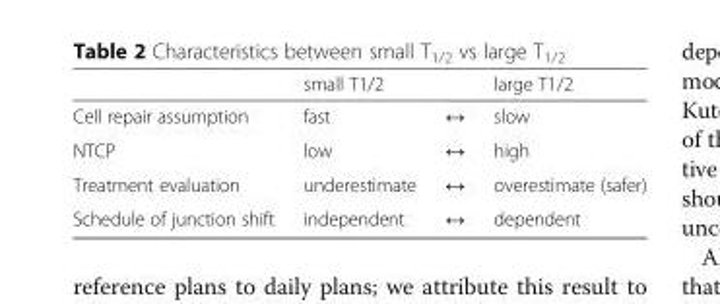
<table><thead><tr><td></td><td>small T1/2</td><td></td><td>large T1/2</td></tr></thead><tbody><tr><td>Cell repair assumption</td><td>fast</td><td>↔</td><td>slow</td></tr><tr><td>NTCP</td><td>low</td><td>↔</td><td>high</td></tr><tr><td>Treatment evaluation</td><td>underestimate</td><td>↔</td><td>overestimate (safer)</td></tr><tr><td>Schedule of junction shift</td><td>independent</td><td>↔</td><td>dependent</td></tr></tbody></table>